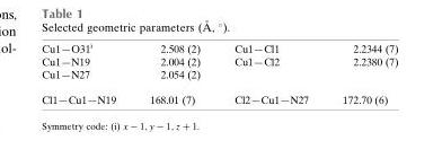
<table><tbody><tr><td>Cu1—O31<sup>i</sup></td><td>2.508 (2)</td><td>Cu1—Cl1</td><td>2.2344 (7)</td></tr><tr><td>Cu1—N19</td><td>2.004 (2)</td><td>Cu1—Cl2</td><td>2.2380 (7)</td></tr><tr><td>Cu1—N27</td><td>2.054 (2)</td><td></td><td></td></tr><tr><td>Cl1—Cu1—N19</td><td>168.01 (7)</td><td>Cl2—Cu1—N27</td><td>172.70 (6)</td></tr></tbody></table>